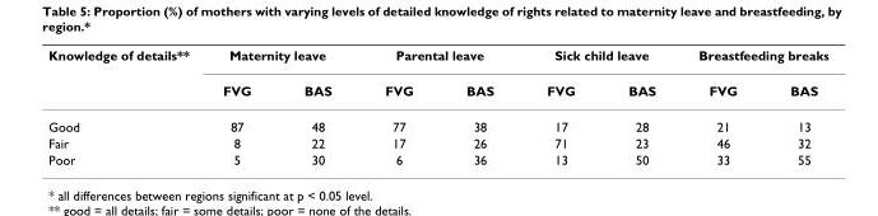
<table><thead><tr><td rowspan="2">Knowledge of details**</td><td colspan="2">Maternity leave</td><td colspan="2">Parental leave</td><td colspan="2">Sick child leave</td><td colspan="2">Breastfeeding breaks</td></tr><tr><td>FVG</td><td>BAS</td><td>FVG</td><td>BAS</td><td>FVG</td><td>BAS</td><td>FVG</td><td>BAS</td></tr></thead><tbody><tr><td>Good</td><td>87</td><td>48</td><td>77</td><td>38</td><td>17</td><td>28</td><td>21</td><td>13</td></tr><tr><td>Fair</td><td>8</td><td>22</td><td>17</td><td>26</td><td>71</td><td>23</td><td>46</td><td>32</td></tr><tr><td>Poor</td><td>5</td><td>30</td><td>6</td><td>36</td><td>13</td><td>50</td><td>33</td><td>55</td></tr></tbody></table>